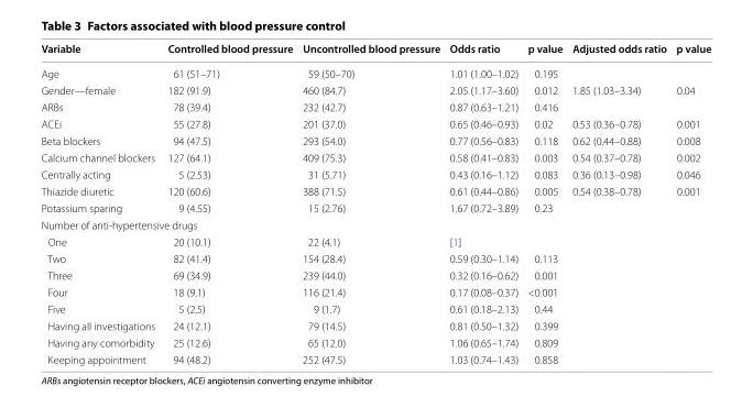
<table><thead><tr><td>Variable</td><td>Controlled blood pressure</td><td>Uncontrolled blood pressure</td><td>Odds ratio</td><td>p value</td><td>Adjusted odds ratio</td><td>p value</td></tr></thead><tbody><tr><td>Age</td><td>61 (51–71)</td><td>59 (50–70)</td><td>1.01 (1.00–1.02)</td><td>0.195</td><td></td><td></td></tr><tr><td>Gender—female</td><td>182 (91.9)</td><td>460 (84.7)</td><td>2.05 (1.17–3.60)</td><td>0.012</td><td>1.85 (1.03–3.34)</td><td>0.04</td></tr><tr><td>ARBs</td><td>78 (39.4)</td><td>232 (42.7)</td><td>0.87 (0.63–1.21)</td><td>0.416</td><td></td><td></td></tr><tr><td>ACEi</td><td>55 (27.8)</td><td>201 (37.0)</td><td>0.65 (0.46–0.93)</td><td>0.02</td><td>0.53 (0.36–0.78)</td><td>0.001</td></tr><tr><td>Beta blockers</td><td>94 (47.5)</td><td>293 (54.0)</td><td>0.77 (0.56–0.83)</td><td>0.118</td><td>0.62 (0.44–0.88)</td><td>0.008</td></tr><tr><td>Calcium channel blockers</td><td>127 (64.1)</td><td>409 (75.3)</td><td>0.58 (0.41–0.83)</td><td>0.003</td><td>0.54 (0.37–0.78)</td><td>0.002</td></tr><tr><td>Centrally acting</td><td>5 (2.53)</td><td>31 (5.71)</td><td>0.43 (0.16–1.12)</td><td>0.083</td><td>0.36 (0.13–0.98)</td><td>0.046</td></tr><tr><td>Thiazide diuretic</td><td>120 (60.6)</td><td>388 (71.5)</td><td>0.61 (0.44–0.86)</td><td>0.005</td><td>0.54 (0.38–0.78)</td><td>0.001</td></tr><tr><td>Potassium sparing</td><td>9 (4.55)</td><td>15 (2.76)</td><td>1.67 (0.72–3.89)</td><td>0.23</td><td></td><td></td></tr><tr><td colspan="7">Number of anti-hypertensive drugs</td></tr><tr><td>One</td><td>20 (10.1)</td><td>22 (4.1)</td><td>[1]</td><td></td><td></td><td></td></tr><tr><td>Two</td><td>82 (41.4)</td><td>154 (28.4)</td><td>0.59 (0.30–1.14)</td><td>0.113</td><td></td><td></td></tr><tr><td>Three</td><td>69 (34.9)</td><td>239 (44.0)</td><td>0.32 (0.16–0.62)</td><td>0.001</td><td></td><td></td></tr><tr><td>Four</td><td>18 (9.1)</td><td>116 (21.4)</td><td>0.17 (0.08–0.37)</td><td>&lt;0.001</td><td></td><td></td></tr><tr><td>Five</td><td>5 (2.5)</td><td>9 (1.7)</td><td>0.61 (0.18–2.13)</td><td>0.44</td><td></td><td></td></tr><tr><td>Having all investigations</td><td>24 (12.1)</td><td>79 (14.5)</td><td>0.81 (0.50–1.32)</td><td>0.399</td><td></td><td></td></tr><tr><td>Having any comorbidity</td><td>25 (12.6)</td><td>65 (12.0)</td><td>1.06 (0.65–1.74)</td><td>0.809</td><td></td><td></td></tr><tr><td>Keeping appointment</td><td>94 (48.2)</td><td>252 (47.5)</td><td>1.03 (0.74–1.43)</td><td>0.858</td><td></td><td></td></tr></tbody></table>